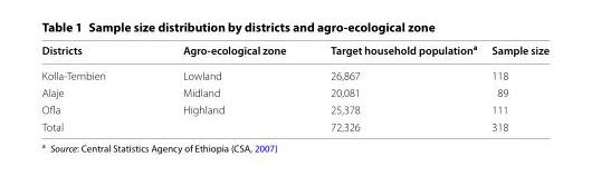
<table><thead><tr><td>Districts</td><td>Agro-ecological zone</td><td>Target household population<sup>a</sup></td><td>Sample size</td></tr></thead><tbody><tr><td>Kolla-Tembien</td><td>Lowland</td><td>26,867</td><td>118</td></tr><tr><td>Alaje</td><td>Midland</td><td>20,081</td><td>89</td></tr><tr><td>Ofla</td><td>Highland</td><td>25,378</td><td>111</td></tr><tr><td>Total</td><td></td><td>72,326</td><td>318</td></tr></tbody></table>